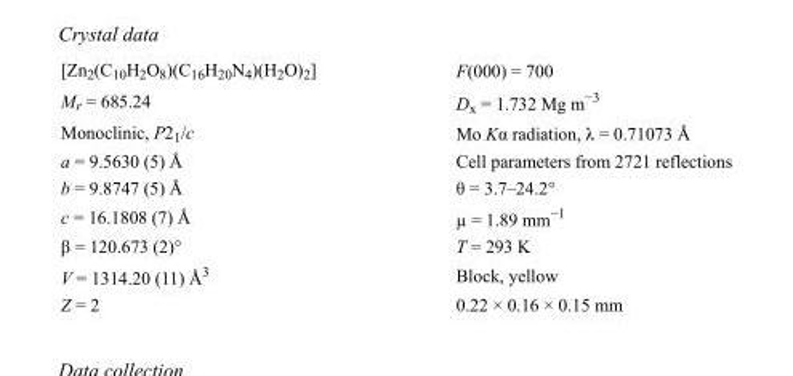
<table><tbody><tr><td>[Zn<sub>2</sub>(C<sub>10</sub>H<sub>2</sub>O<sub>8</sub>)(C<sub>16</sub>H<sub>20</sub>N<sub>4</sub>)(H<sub>2</sub>O)<sub>2</sub>]</td><td>F(000) = 700</td></tr><tr><td>M<sub>r</sub> = 685.24</td><td>D<sub>x</sub> = 1.732 Mg m<sup>−3</sup></td></tr><tr><td>Monoclinic, P2<sub>1</sub>/c</td><td>Mo Kα radiation, λ = 0.71073 Å</td></tr><tr><td>a = 9.5630 (5) Å</td><td>Cell parameters from 2721 reflections</td></tr><tr><td>b = 9.8747 (5) Å</td><td>θ = 3.7–24.2°</td></tr><tr><td>c = 16.1808 (7) Å</td><td>µ = 1.89 mm<sup>−1</sup></td></tr><tr><td>β = 120.673 (2)°</td><td>T = 293 K</td></tr><tr><td>V = 1314.20 (11) Å<sup>3</sup></td><td>Block, yellow</td></tr><tr><td>Z = 2</td><td>0.22 × 0.16 × 0.15 mm</td></tr></tbody></table>